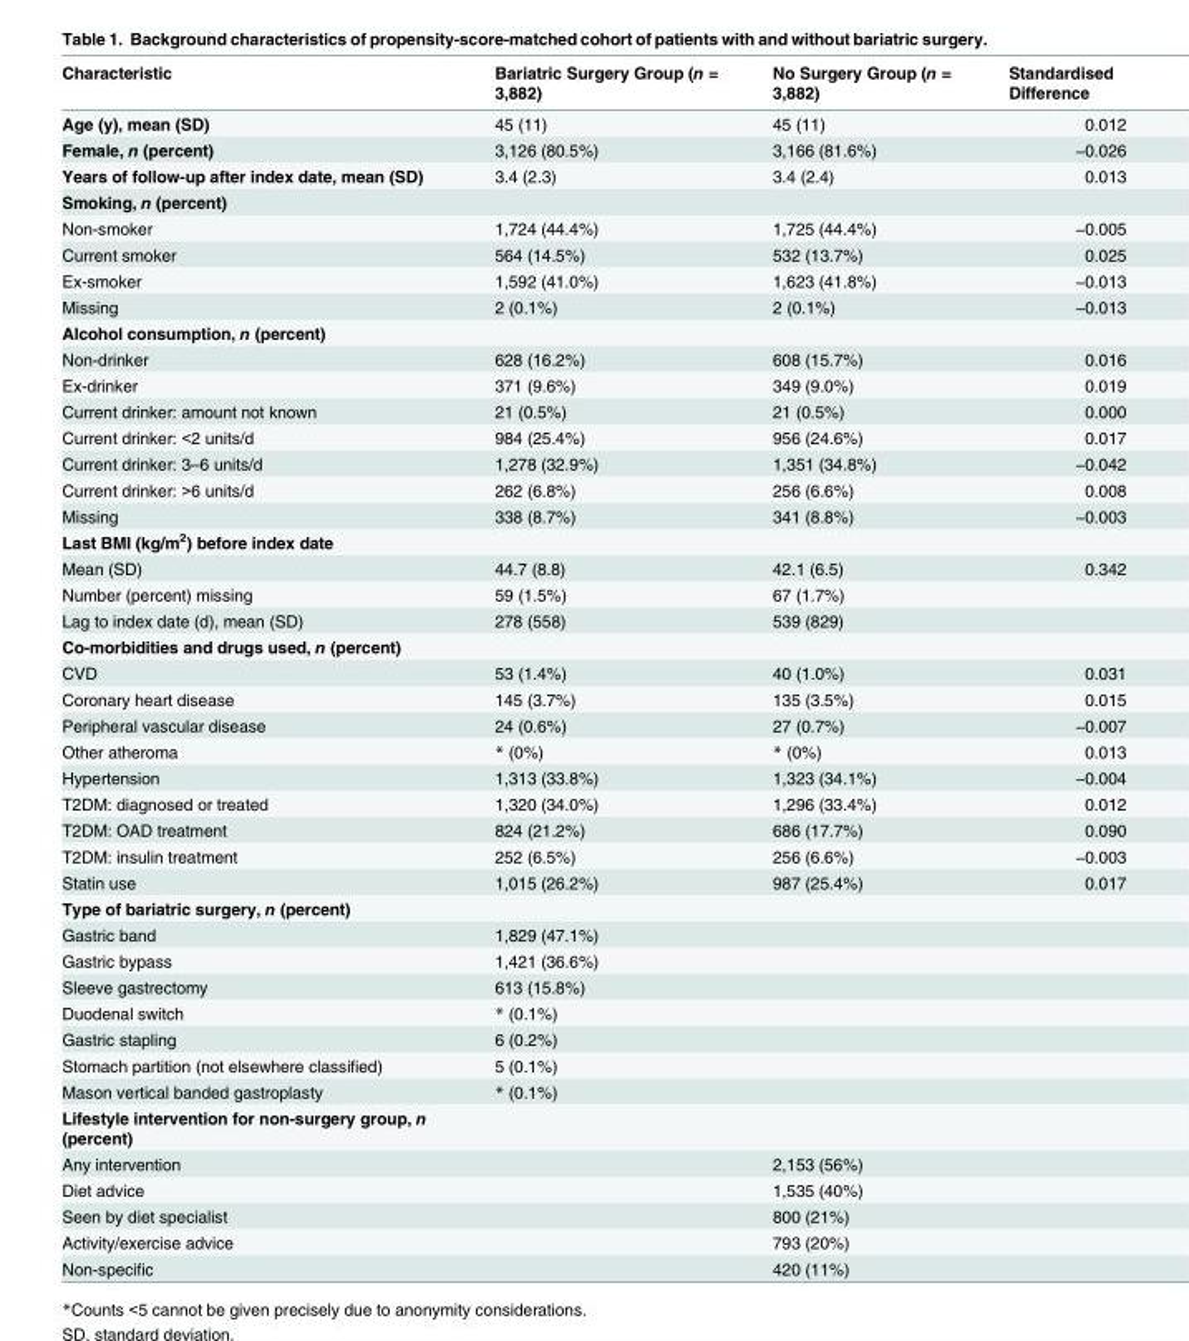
<table><thead><tr><td>Characteristic</td><td>Bariatric Surgery Group (n = 3,882)</td><td>No Surgery Group (n = 3,882)</td><td>Standardised Difference</td></tr></thead><tbody><tr><td>Age (y), mean (SD)</td><td>45 (11)</td><td>45 (11)</td><td>0.012</td></tr><tr><td>Female, n (percent)</td><td>3,126 (80.5%)</td><td>3,166 (81.6%)</td><td>−0.026</td></tr><tr><td>Years of follow-up after index date, mean (SD)</td><td>3.4 (2.3)</td><td>3.4 (2.4)</td><td>0.013</td></tr><tr><td colspan="4">Smoking, n (percent)</td></tr><tr><td>Non-smoker</td><td>1,724 (44.4%)</td><td>1,725 (44.4%)</td><td>−0.005</td></tr><tr><td>Current smoker</td><td>564 (14.5%)</td><td>532 (13.7%)</td><td>0.025</td></tr><tr><td>Ex-smoker</td><td>1,592 (41.0%)</td><td>1,623 (41.8%)</td><td>−0.013</td></tr><tr><td>Missing</td><td>2 (0.1%)</td><td>2 (0.1%)</td><td>−0.013</td></tr><tr><td colspan="4">Alcohol consumption, n (percent)</td></tr><tr><td>Non-drinker</td><td>628 (16.2%)</td><td>608 (15.7%)</td><td>0.016</td></tr><tr><td>Ex-drinker</td><td>371 (9.6%)</td><td>349 (9.0%)</td><td>0.019</td></tr><tr><td>Current drinker: amount not known</td><td>21 (0.5%)</td><td>21 (0.5%)</td><td>0.000</td></tr><tr><td>Current drinker: &lt;2 units/d</td><td>984 (25.4%)</td><td>956 (24.6%)</td><td>0.017</td></tr><tr><td>Current drinker: 3–6 units/d</td><td>1,278 (32.9%)</td><td>1,351 (34.8%)</td><td>−0.042</td></tr><tr><td>Current drinker: &gt;6 units/d</td><td>262 (6.8%)</td><td>256 (6.6%)</td><td>0.008</td></tr><tr><td>Missing</td><td>338 (8.7%)</td><td>341 (8.8%)</td><td>−0.003</td></tr><tr><td colspan="4">Last BMI (kg/m<sup>2</sup>) before index date</td></tr><tr><td>Mean (SD)</td><td>44.7 (8.8)</td><td>42.1 (6.5)</td><td>0.342</td></tr><tr><td>Number (percent) missing</td><td>59 (1.5%)</td><td>67 (1.7%)</td><td></td></tr><tr><td>Lag to index date (d), mean (SD)</td><td>278 (558)</td><td>539 (829)</td><td></td></tr><tr><td colspan="4">Co-morbidities and drugs used, n (percent)</td></tr><tr><td>CVD</td><td>53 (1.4%)</td><td>40 (1.0%)</td><td>0.031</td></tr><tr><td>Coronary heart disease</td><td>145 (3.7%)</td><td>135 (3.5%)</td><td>0.015</td></tr><tr><td>Peripheral vascular disease</td><td>24 (0.6%)</td><td>27 (0.7%)</td><td>−0.007</td></tr><tr><td>Other atheroma</td><td>* (0%)</td><td>* (0%)</td><td>0.013</td></tr><tr><td>Hypertension</td><td>1,313 (33.8%)</td><td>1,323 (34.1%)</td><td>−0.004</td></tr><tr><td>T2DM: diagnosed or treated</td><td>1,320 (34.0%)</td><td>1,296 (33.4%)</td><td>0.012</td></tr><tr><td>T2DM: OAD treatment</td><td>824 (21.2%)</td><td>686 (17.7%)</td><td>0.090</td></tr><tr><td>T2DM: insulin treatment</td><td>252 (6.5%)</td><td>256 (6.6%)</td><td>−0.003</td></tr><tr><td>Statin use</td><td>1,015 (26.2%)</td><td>987 (25.4%)</td><td>0.017</td></tr><tr><td colspan="4">Type of bariatric surgery, n (percent)</td></tr><tr><td>Gastric band</td><td>1,829 (47.1%)</td><td></td><td></td></tr><tr><td>Gastric bypass</td><td>1,421 (36.6%)</td><td></td><td></td></tr><tr><td>Sleeve gastrectomy</td><td>613 (15.8%)</td><td></td><td></td></tr><tr><td>Duodenal switch</td><td>* (0.1%)</td><td></td><td></td></tr><tr><td>Gastric stapling</td><td>6 (0.2%)</td><td></td><td></td></tr><tr><td>Stomach partition (not elsewhere classified)</td><td>5 (0.1%)</td><td></td><td></td></tr><tr><td>Mason vertical banded gastroplasty</td><td>* (0.1%)</td><td></td><td></td></tr><tr><td colspan="4">Lifestyle intervention for non-surgery group, n (percent)</td></tr><tr><td>Any intervention</td><td></td><td>2,153 (56%)</td><td></td></tr><tr><td>Diet advice</td><td></td><td>1,535 (40%)</td><td></td></tr><tr><td>Seen by diet specialist</td><td></td><td>800 (21%)</td><td></td></tr><tr><td>Activity/exercise advice</td><td></td><td>793 (20%)</td><td></td></tr><tr><td>Non-specific</td><td></td><td>420 (11%)</td><td></td></tr></tbody></table>